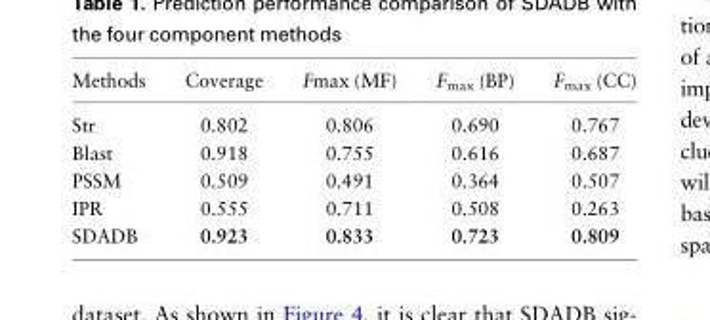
<table><thead><tr><td>Methods</td><td>Coverage</td><td>Fmax (MF)</td><td>F<sub>max</sub> (BP)</td><td>F<sub>max</sub> (CC)</td></tr></thead><tbody><tr><td>Str</td><td>0.802</td><td>0.806</td><td>0.690</td><td>0.767</td></tr><tr><td>Blast</td><td>0.918</td><td>0.755</td><td>0.616</td><td>0.687</td></tr><tr><td>PSSM</td><td>0.509</td><td>0.491</td><td>0.364</td><td>0.507</td></tr><tr><td>IPR</td><td>0.555</td><td>0.711</td><td>0.508</td><td>0.263</td></tr><tr><td>SDADB</td><td>0.923</td><td>0.833</td><td>0.723</td><td>0.809</td></tr></tbody></table>